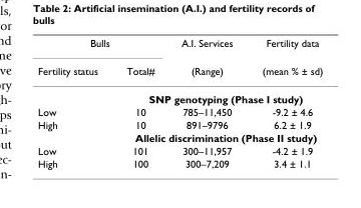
<table><thead><tr><td colspan="2">Bulls</td><td rowspan="2">A.I. Services (Range)</td><td rowspan="2">Fertility data (mean % ± sd)</td></tr><tr><td>Fertility status</td><td>Total#</td></tr></thead><tbody><tr><td></td><td colspan="3">SNP genotyping (Phase I study)</td></tr><tr><td>Low</td><td>10</td><td>785–11,450</td><td>-9.2 ± 4.6</td></tr><tr><td rowspan="2">High</td><td>10</td><td>891–9796</td><td>6.2 ± 1.9</td></tr><tr><td colspan="3">Allelic discrimination (Phase II study)</td></tr><tr><td>Low</td><td>101</td><td>300–11,957</td><td>-4.2 ± 1.9</td></tr><tr><td>High</td><td>100</td><td>300–7,209</td><td>3.4 ± 1.1</td></tr></tbody></table>